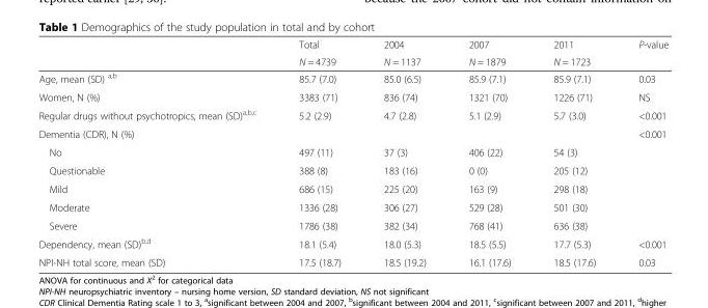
<table><thead><tr><td rowspan="2"></td><td rowspan="2">Total N = 4739</td><td rowspan="2">2004 N = 1137</td><td rowspan="2">2007 N = 1879</td><td rowspan="2">2011 N = 1723</td><td rowspan="2">P-value</td></tr><tr></tr></thead><tbody><tr><td>Age, mean (SD) <sup>a,b</sup></td><td>85.7 (7.0)</td><td>85.0 (6.5)</td><td>85.9 (7.1)</td><td>85.9 (7.1)</td><td>0.03</td></tr><tr><td>Women, N (%)</td><td>3383 (71)</td><td>836 (74)</td><td>1321 (70)</td><td>1226 (71)</td><td>NS</td></tr><tr><td>Regular drugs without psychotropics, mean (SD)<sup>a,b,c</sup></td><td>5.2 (2.9)</td><td>4.7 (2.8)</td><td>5.1 (2.9)</td><td>5.7 (3.0)</td><td>&lt;0.001</td></tr><tr><td>Dementia (CDR), N (%)</td><td></td><td></td><td></td><td></td><td>&lt;0.001</td></tr><tr><td>No</td><td>497 (11)</td><td>37 (3)</td><td>406 (22)</td><td>54 (3)</td><td></td></tr><tr><td>Questionable</td><td>388 (8)</td><td>183 (16)</td><td>0 (0)</td><td>205 (12)</td><td></td></tr><tr><td>Mild</td><td>686 (15)</td><td>225 (20)</td><td>163 (9)</td><td>298 (18)</td><td></td></tr><tr><td>Moderate</td><td>1336 (28)</td><td>306 (27)</td><td>529 (28)</td><td>501 (30)</td><td></td></tr><tr><td>Severe</td><td>1786 (38)</td><td>382 (34)</td><td>768 (41)</td><td>636 (38)</td><td></td></tr><tr><td>Dependency, mean (SD)<sup>b,d</sup></td><td>18.1 (5.4)</td><td>18.0 (5.3)</td><td>18.5 (5.5)</td><td>17.7 (5.3)</td><td>&lt;0.001</td></tr><tr><td>NPI-NH total score, mean (SD)</td><td>17.5 (18.7)</td><td>18.5 (19.2)</td><td>16.1 (17.6)</td><td>18.5 (17.6)</td><td>0.03</td></tr></tbody></table>